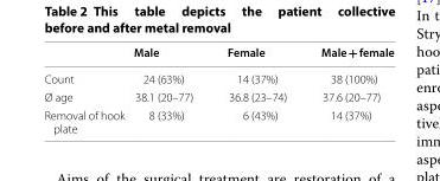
<table><thead><tr><td></td><td>Male</td><td>Female</td><td>Male + female</td></tr></thead><tbody><tr><td>Count</td><td>24 (63%)</td><td>14 (37%)</td><td>38 (100%)</td></tr><tr><td>Ø age</td><td>38.1 (20–77)</td><td>36.8 (23–74)</td><td>37.6 (20–77)</td></tr><tr><td>Removal of hook plate</td><td>8 (33%)</td><td>6 (43%)</td><td>14 (37%)</td></tr></tbody></table>